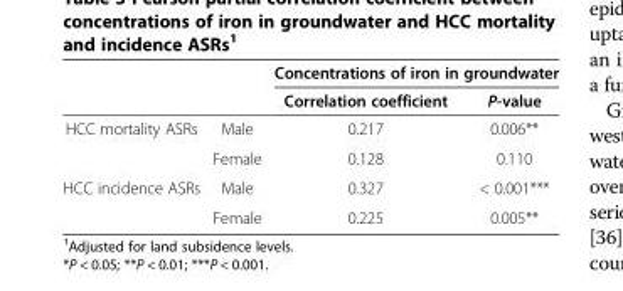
<table><thead><tr><td rowspan="2"></td><td rowspan="2"></td><td colspan="2">Concentrations of iron in groundwater</td></tr><tr><td>Correlation coefficient</td><td>P-value</td></tr></thead><tbody><tr><td rowspan="2">HCC mortality ASRs</td><td>Male</td><td>0.217</td><td>0.006**</td></tr><tr><td>Female</td><td>0.128</td><td>0.110</td></tr><tr><td rowspan="2">HCC incidence ASRs</td><td>Male</td><td>0.327</td><td>&lt; 0.001***</td></tr><tr><td>Female</td><td>0.225</td><td>0.005**</td></tr></tbody></table>